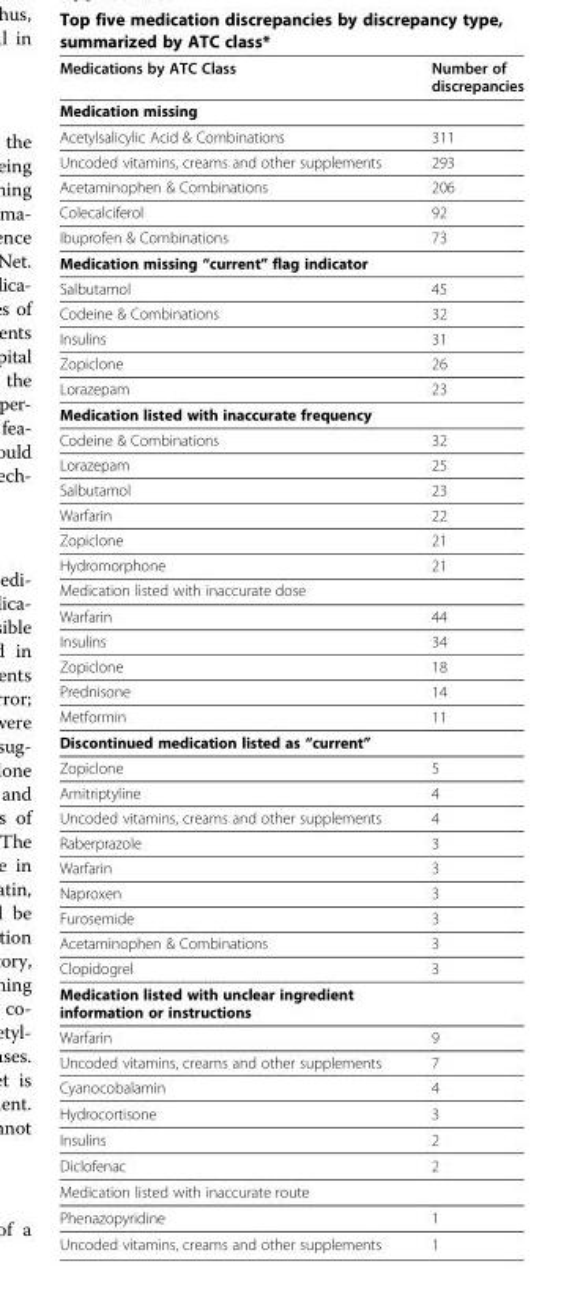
<table><thead><tr><td>Medications by ATC Class</td><td>Number of discrepancies</td></tr></thead><tbody><tr><td colspan="2">Medication missing</td></tr><tr><td>Acetylsalicylic Acid &amp; Combinations</td><td>311</td></tr><tr><td>Uncoded vitamins, creams and other supplements</td><td>293</td></tr><tr><td>Acetaminophen &amp; Combinations</td><td>206</td></tr><tr><td>Colecalciferol</td><td>92</td></tr><tr><td>Ibuprofen &amp; Combinations</td><td>73</td></tr><tr><td colspan="2">Medication missing “current” flag indicator</td></tr><tr><td>Salbutamol</td><td>45</td></tr><tr><td>Codeine &amp; Combinations</td><td>32</td></tr><tr><td>Insulins</td><td>31</td></tr><tr><td>Zopiclone</td><td>26</td></tr><tr><td>Lorazepam</td><td>23</td></tr><tr><td colspan="2">Medication listed with inaccurate frequency</td></tr><tr><td>Codeine &amp; Combinations</td><td>32</td></tr><tr><td>Lorazepam</td><td>25</td></tr><tr><td>Salbutamol</td><td>23</td></tr><tr><td>Warfarin</td><td>22</td></tr><tr><td>Zopiclone</td><td>21</td></tr><tr><td>Hydromorphone</td><td>21</td></tr><tr><td colspan="2">Medication listed with inaccurate dose</td></tr><tr><td>Warfarin</td><td>44</td></tr><tr><td>Insulins</td><td>34</td></tr><tr><td>Zopiclone</td><td>18</td></tr><tr><td>Prednisone</td><td>14</td></tr><tr><td>Metformin</td><td>11</td></tr><tr><td colspan="2">Discontinued medication listed as “current”</td></tr><tr><td>Zopiclone</td><td>5</td></tr><tr><td>Amitriptyline</td><td>4</td></tr><tr><td>Uncoded vitamins, creams and other supplements</td><td>4</td></tr><tr><td>Raberprazole</td><td>3</td></tr><tr><td>Warfarin</td><td>3</td></tr><tr><td>Naproxen</td><td>3</td></tr><tr><td>Furosemide</td><td>3</td></tr><tr><td>Acetaminophen &amp; Combinations</td><td>3</td></tr><tr><td>Clopidogrel</td><td>3</td></tr><tr><td colspan="2">Medication listed with unclear ingredient information or instructions</td></tr><tr><td>Warfarin</td><td>9</td></tr><tr><td>Uncoded vitamins, creams and other supplements</td><td>7</td></tr><tr><td>Cyanocobalamin</td><td>4</td></tr><tr><td>Hydrocortisone</td><td>3</td></tr><tr><td>Insulins</td><td>2</td></tr><tr><td>Diclofenac</td><td>2</td></tr><tr><td colspan="2">Medication listed with inaccurate route</td></tr><tr><td>Phenazopyridine</td><td>1</td></tr><tr><td>Uncoded vitamins, creams and other supplements</td><td>1</td></tr></tbody></table>